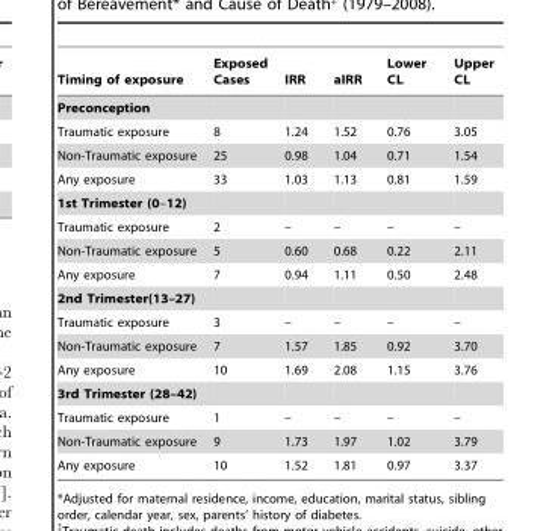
<table><thead><tr><td>Timing of exposure</td><td>Exposed Cases</td><td>IRR</td><td>aIRR</td><td>Lower CL</td><td>Upper CL</td></tr></thead><tbody><tr><td colspan="6">Preconception</td></tr><tr><td>Traumatic exposure</td><td>8</td><td>1.24</td><td>1.52</td><td>0.76</td><td>3.05</td></tr><tr><td>Non-Traumatic exposure</td><td>25</td><td>0.98</td><td>1.04</td><td>0.71</td><td>1.54</td></tr><tr><td>Any exposure</td><td>33</td><td>1.03</td><td>1.13</td><td>0.81</td><td>1.59</td></tr><tr><td colspan="6">1st Trimester (0–12)</td></tr><tr><td>Traumatic exposure</td><td>2</td><td>–</td><td>–</td><td>–</td><td>–</td></tr><tr><td>Non-Traumatic exposure</td><td>5</td><td>0.60</td><td>0.68</td><td>0.22</td><td>2.11</td></tr><tr><td>Any exposure</td><td>7</td><td>0.94</td><td>1.11</td><td>0.50</td><td>2.48</td></tr><tr><td colspan="6">2nd Trimester(13–27)</td></tr><tr><td>Traumatic exposure</td><td>3</td><td>–</td><td>–</td><td>–</td><td>–</td></tr><tr><td>Non-Traumatic exposure</td><td>7</td><td>1.57</td><td>1.85</td><td>0.92</td><td>3.70</td></tr><tr><td>Any exposure</td><td>10</td><td>1.69</td><td>2.08</td><td>1.15</td><td>3.76</td></tr><tr><td colspan="6">3rd Trimester (28–42)</td></tr><tr><td>Traumatic exposure</td><td>1</td><td>–</td><td>–</td><td>–</td><td>–</td></tr><tr><td>Non-Traumatic exposure</td><td>9</td><td>1.73</td><td>1.97</td><td>1.02</td><td>3.79</td></tr><tr><td>Any exposure</td><td>10</td><td>1.52</td><td>1.81</td><td>0.97</td><td>3.37</td></tr></tbody></table>